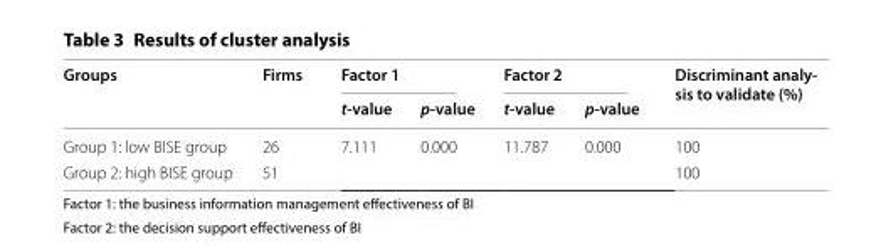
<table><thead><tr><td rowspan="2">Groups</td><td rowspan="2">Firms</td><td colspan="2">Factor 1</td><td colspan="2">Factor 2</td><td rowspan="2">Discriminant analy- sis to validate (%)</td></tr><tr><td>t-value</td><td>p-value</td><td>t-value</td><td>p-value</td></tr></thead><tbody><tr><td>Group 1: low BISE group</td><td>26</td><td rowspan="2">7.111</td><td rowspan="2">0.000</td><td rowspan="2">11.787</td><td rowspan="2">0.000</td><td>100</td></tr><tr><td>Group 2: high BISE group</td><td>51</td><td>100</td></tr></tbody></table>